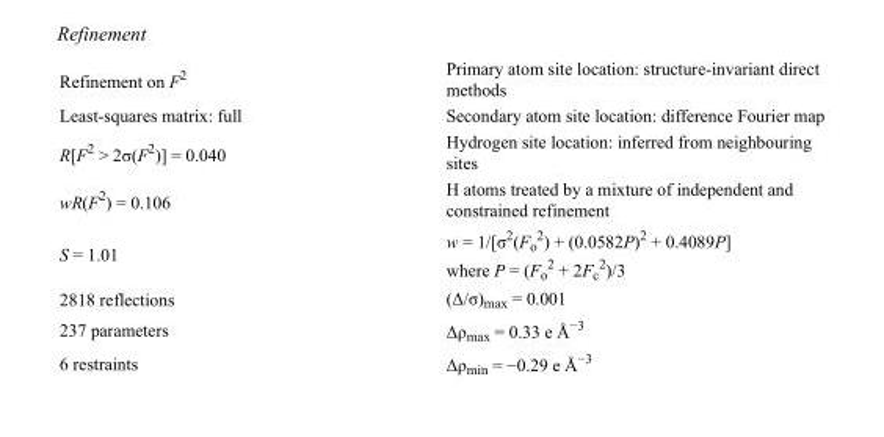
<table><tbody><tr><td>Refinement on F<sup>2</sup></td><td>Primary atom site location: structure-invariant direct methods</td></tr><tr><td>Least-squares matrix: full</td><td>Secondary atom site location: difference Fourier map</td></tr><tr><td>R[F<sup>2</sup> &gt; 2σ(F<sup>2</sup>)] = 0.040</td><td>Hydrogen site location: inferred from neighbouring sites</td></tr><tr><td>wR(F<sup>2</sup>) = 0.106</td><td>H atoms treated by a mixture of independent and constrained refinement</td></tr><tr><td>S = 1.01</td><td>w = 1/[σ<sup>2</sup>(F<sub>o</sub> <sup>2</sup>) + (0.0582P)<sup>2</sup> + 0.4089P] where P = (F<sub>o</sub> <sup>2</sup> + 2F<sub>c</sub> <sup>2</sup>)/3</td></tr><tr><td>2818 reflections</td><td>(Δ/σ)<sub>max</sub> = 0.001</td></tr><tr><td>237 parameters</td><td>Δρ<sub>max</sub> = 0.33 e Å<sup>−3</sup></td></tr><tr><td>6 restraints</td><td>Δρ<sub>min</sub> = −0.29 e Å<sup>−3</sup></td></tr></tbody></table>